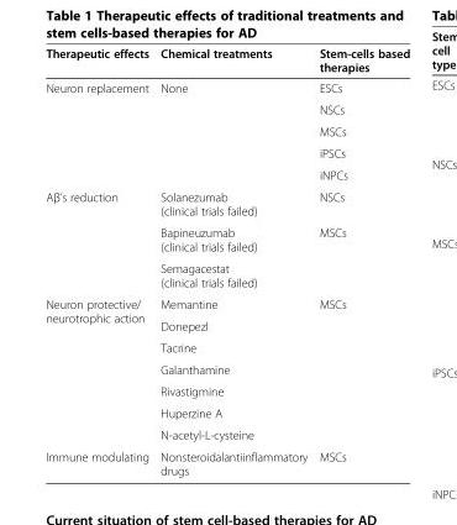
<table><thead><tr><td>Therapeutic effects</td><td>Chemical treatments</td><td>Stem-cells based therapies</td></tr></thead><tbody><tr><td rowspan="5">Neuron replacement</td><td rowspan="5">None</td><td>ESCs</td></tr><tr><td>NSCs</td></tr><tr><td>MSCs</td></tr><tr><td>iPSCs</td></tr><tr><td>iNPCs</td></tr><tr><td rowspan="3">Aβ’s reduction</td><td>Solanezumab (clinical trials failed)</td><td>NSCs</td></tr><tr><td>Bapineuzumab (clinical trials failed)</td><td>MSCs</td></tr><tr><td>Semagacestat (clinical trials failed)</td><td></td></tr><tr><td rowspan="7">Neuron protective/ neurotrophic action</td><td>Memantine</td><td rowspan="7">MSCs</td></tr><tr><td>Donepezl</td></tr><tr><td>Tacrine</td></tr><tr><td>Galanthamine</td></tr><tr><td>Rivastigmine</td></tr><tr><td>Huperzine A</td></tr><tr><td>N-acetyl-L-cysteine</td></tr><tr><td>Immune modulating</td><td>Nonsteroidalantiinflammatory drugs</td><td>MSCs</td></tr></tbody></table>